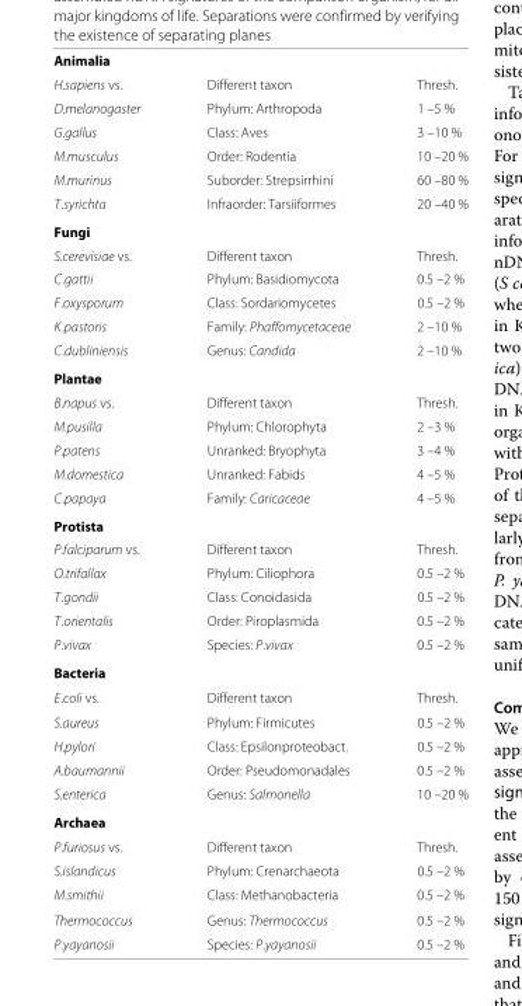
<table><tbody><tr><td colspan="3">Animalia</td></tr><tr><td>H.sapiens vs.</td><td>Different taxon</td><td>Thresh.</td></tr><tr><td>D.melanogaster</td><td>Phylum: Arthropoda</td><td>1 –5 %</td></tr><tr><td>G.gallus</td><td>Class: Aves</td><td>3 –10 %</td></tr><tr><td>M.musculus</td><td>Order: Rodentia</td><td>10 –20 %</td></tr><tr><td>M.murinus</td><td>Suborder: Strepsirrhini</td><td>60 –80 %</td></tr><tr><td>T.syrichta</td><td>Infraorder: Tarsiiformes</td><td>20 –40 %</td></tr><tr><td colspan="3">Fungi</td></tr><tr><td>S.cerevisiae vs.</td><td>Different taxon</td><td>Thresh.</td></tr><tr><td>C.gattii</td><td>Phylum: Basidiomycota</td><td>0.5 –2 %</td></tr><tr><td>F.oxysporum</td><td>Class: Sordariomycetes</td><td>0.5 –2 %</td></tr><tr><td>K.pastoris</td><td>Family: Phaffomycetaceae</td><td>2 –10 %</td></tr><tr><td>C.dubliniensis</td><td>Genus: Candida</td><td>2 –10 %</td></tr><tr><td colspan="3">Plantae</td></tr><tr><td>B.napus vs.</td><td>Different taxon</td><td>Thresh.</td></tr><tr><td>M.pusilla</td><td>Phylum: Chlorophyta</td><td>2 –3 %</td></tr><tr><td>P.patens</td><td>Unranked: Bryophyta</td><td>3 –4 %</td></tr><tr><td>M.domestica</td><td>Unranked: Fabids</td><td>4 –5 %</td></tr><tr><td>C.papaya</td><td>Family: Caricaceae</td><td>4 –5 %</td></tr><tr><td colspan="3">Protista</td></tr><tr><td>P.falciparum vs.</td><td>Different taxon</td><td>Thresh.</td></tr><tr><td>O.trifallax</td><td>Phylum: Ciliophora</td><td>0.5 –2 %</td></tr><tr><td>T.gondii</td><td>Class: Conoidasida</td><td>0.5 –2 %</td></tr><tr><td>T.orientalis</td><td>Order: Piroplasmida</td><td>0.5 –2 %</td></tr><tr><td>P.vivax</td><td>Species: P.vivax</td><td>0.5 –2 %</td></tr><tr><td colspan="3">Bacteria</td></tr><tr><td>E.coli vs.</td><td>Different taxon</td><td>Thresh.</td></tr><tr><td>S.aureus</td><td>Phylum: Firmicutes</td><td>0.5 –2 %</td></tr><tr><td>H.pylori</td><td>Class: Epsilonproteobact.</td><td>0.5 –2 %</td></tr><tr><td>A.baumannii</td><td>Order: Pseudomonadales</td><td>0.5 –2 %</td></tr><tr><td>S.enterica</td><td>Genus: Salmonella</td><td>10 –20 %</td></tr><tr><td colspan="3">Archaea</td></tr><tr><td>P.furiosus vs.</td><td>Different taxon</td><td>Thresh.</td></tr><tr><td>S.islandicus</td><td>Phylum: Crenarchaeota</td><td>0.5 –2 %</td></tr><tr><td>M.smithii</td><td>Class: Methanobacteria</td><td>0.5 –2 %</td></tr><tr><td>Thermococcus</td><td>Genus: Thermococcus</td><td>0.5 –2 %</td></tr><tr><td>P.yayanosii</td><td>Species: P.yayanosii</td><td>0.5 –2 %</td></tr></tbody></table>